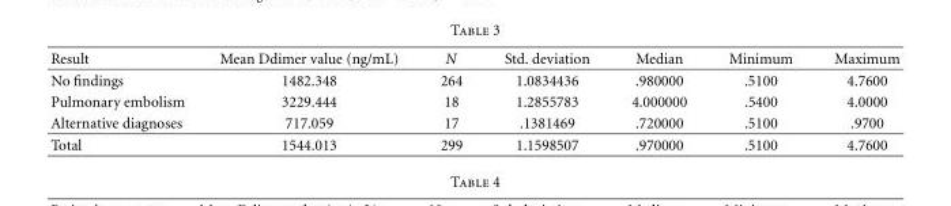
<table><thead><tr><td>Result</td><td>Mean Ddimer value (ng/mL)</td><td>N</td><td>Std. deviation</td><td>Median</td><td>Minimum</td><td>Maximum</td></tr></thead><tbody><tr><td>No findings</td><td>1482.348</td><td>264</td><td>1.0834436</td><td>.980000</td><td>.5100</td><td>4.7600</td></tr><tr><td>Pulmonary embolism</td><td>3229.444</td><td>18</td><td>1.2855783</td><td>4.000000</td><td>.5400</td><td>4.0000</td></tr><tr><td>Alternative diagnoses</td><td>717.059</td><td>17</td><td>.1381469</td><td>.720000</td><td>.5100</td><td>.9700</td></tr><tr><td>Total</td><td>1544.013</td><td>299</td><td>1.1598507</td><td>.970000</td><td>.5100</td><td>4.7600</td></tr></tbody></table>